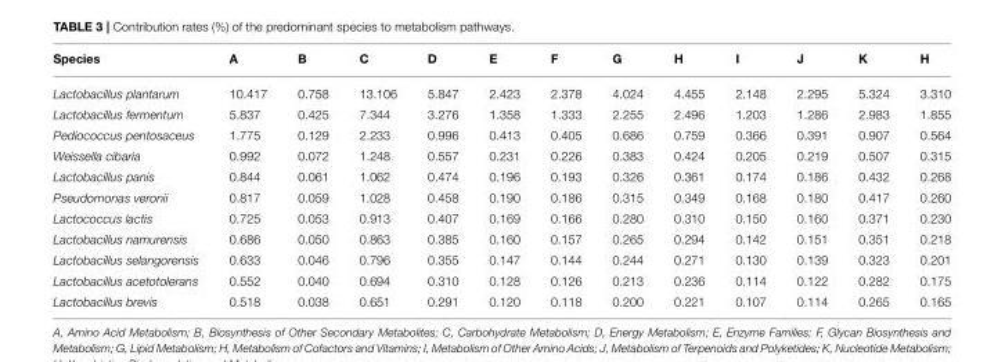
<table><thead><tr><td>Species</td><td>A</td><td>B</td><td>C</td><td>D</td><td>E</td><td>F</td><td>G</td><td>H</td><td>I</td><td>J</td><td>K</td><td>H</td></tr></thead><tbody><tr><td>Lactobacillus plantarum</td><td>10.417</td><td>0.758</td><td>13.106</td><td>5.847</td><td>2.423</td><td>2.378</td><td>4.024</td><td>4.455</td><td>2.148</td><td>2.295</td><td>5.324</td><td>3.310</td></tr><tr><td>Lactobacillus fermentum</td><td>5.837</td><td>0.425</td><td>7.344</td><td>3.276</td><td>1.358</td><td>1.333</td><td>2.255</td><td>2.496</td><td>1.203</td><td>1.286</td><td>2.983</td><td>1.855</td></tr><tr><td>Pediococcus pentosaceus</td><td>1.775</td><td>0.129</td><td>2.233</td><td>0.996</td><td>0.413</td><td>0.405</td><td>0.686</td><td>0.759</td><td>0.366</td><td>0.391</td><td>0.907</td><td>0.564</td></tr><tr><td>Weissella cibaria</td><td>0.992</td><td>0.072</td><td>1.248</td><td>0.557</td><td>0.231</td><td>0.226</td><td>0.383</td><td>0.424</td><td>0.205</td><td>0.219</td><td>0.507</td><td>0.315</td></tr><tr><td>Lactobacillus panis</td><td>0.844</td><td>0.061</td><td>1.062</td><td>0.474</td><td>0.196</td><td>0.193</td><td>0.326</td><td>0.361</td><td>0.174</td><td>0.186</td><td>0.432</td><td>0.268</td></tr><tr><td>Pseudomonas veronii</td><td>0.817</td><td>0.059</td><td>1.028</td><td>0.458</td><td>0.190</td><td>0.186</td><td>0.315</td><td>0.349</td><td>0.168</td><td>0.180</td><td>0.417</td><td>0.260</td></tr><tr><td>Lactococcus lactis</td><td>0.725</td><td>0.053</td><td>0.913</td><td>0.407</td><td>0.169</td><td>0.166</td><td>0.280</td><td>0.310</td><td>0.150</td><td>0.160</td><td>0.371</td><td>0.230</td></tr><tr><td>Lactobacillus namurensis</td><td>0.686</td><td>0.050</td><td>0.863</td><td>0.385</td><td>0.160</td><td>0.157</td><td>0.265</td><td>0.294</td><td>0.142</td><td>0.151</td><td>0.351</td><td>0.218</td></tr><tr><td>Lactobacillus selangorensis</td><td>0.633</td><td>0.046</td><td>0.796</td><td>0.355</td><td>0.147</td><td>0.144</td><td>0.244</td><td>0.271</td><td>0.130</td><td>0.139</td><td>0.323</td><td>0.201</td></tr><tr><td>Lactobacillus acetotolerans</td><td>0.552</td><td>0.040</td><td>0.694</td><td>0.310</td><td>0.128</td><td>0.126</td><td>0.213</td><td>0.236</td><td>0.114</td><td>0.122</td><td>0.282</td><td>0.175</td></tr><tr><td>Lactobacillus brevis</td><td>0.518</td><td>0.038</td><td>0.651</td><td>0.291</td><td>0.120</td><td>0.118</td><td>0.200</td><td>0.221</td><td>0.107</td><td>0.114</td><td>0.265</td><td>0.165</td></tr></tbody></table>